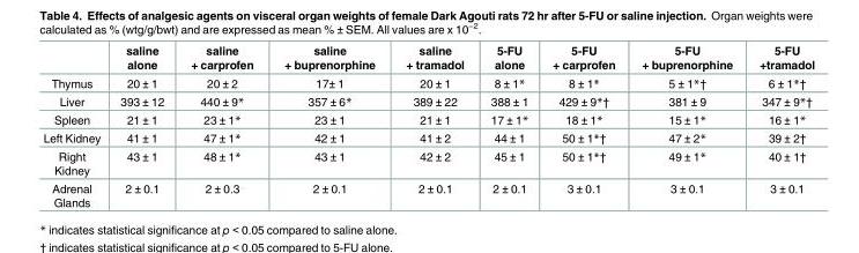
<table><thead><tr><td></td><td>saline alone</td><td>saline + carprofen</td><td>saline + buprenorphine</td><td>saline + tramadol</td><td>5-FU alone</td><td>5-FU + carprofen</td><td>5-FU + buprenorphine</td><td>5-FU +tramadol</td></tr></thead><tbody><tr><td>Thymus</td><td>20 ± 1</td><td>20 ± 2</td><td>17± 1</td><td>20 ± 1</td><td>8 ± 1*</td><td>8 ± 1*</td><td>5 ± 1*†</td><td>6 ± 1*†</td></tr><tr><td>Liver</td><td>393 ± 12</td><td>440 ± 9*</td><td>357 ± 6*</td><td>389 ± 22</td><td>388 ± 1</td><td>429 ± 9*†</td><td>381 ± 9</td><td>347 ± 9*†</td></tr><tr><td>Spleen</td><td>21 ± 1</td><td>23 ± 1*</td><td>23 ± 1</td><td>21 ± 1</td><td>17 ± 1*</td><td>18 ± 1*</td><td>15 ± 1*</td><td>16 ± 1*</td></tr><tr><td>Left Kidney</td><td>41 ± 1</td><td>47 ± 1*</td><td>42 ± 1</td><td>41 ± 2</td><td>44 ± 1</td><td>50 ± 1*†</td><td>47 ± 2*</td><td>39 ± 2†</td></tr><tr><td>Right Kidney</td><td>43 ± 1</td><td>48 ± 1*</td><td>43 ± 1</td><td>42 ± 2</td><td>45 ± 1</td><td>50 ± 1*†</td><td>49 ± 1*</td><td>40 ± 1†</td></tr><tr><td>Adrenal Glands</td><td>2 ± 0.1</td><td>2 ± 0.3</td><td>2 ± 0.1</td><td>2 ± 0.1</td><td>2 ± 0.1</td><td>3 ± 0.1</td><td>3 ± 0.1</td><td>3 ± 0.1</td></tr></tbody></table>